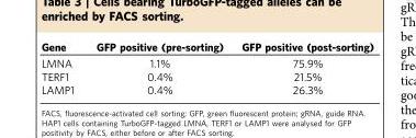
<table><thead><tr><td>Gene</td><td>GFP positive (pre-sorting)</td><td>GFP positive (post-sorting)</td></tr></thead><tbody><tr><td>LMNA</td><td>1.1%</td><td>75.9%</td></tr><tr><td>TERF1</td><td>0.4%</td><td>21.5%</td></tr><tr><td>LAMP1</td><td>0.4%</td><td>26.3%</td></tr></tbody></table>